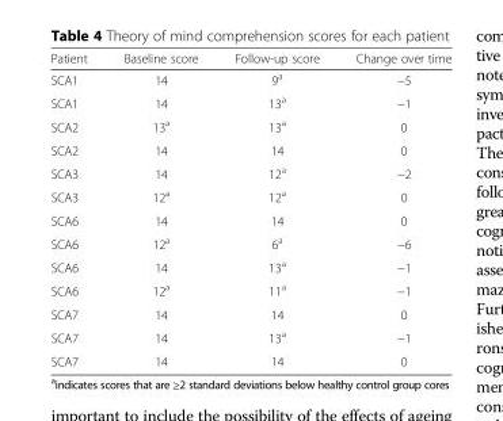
<table><thead><tr><td>Patient</td><td>Baseline score</td><td>Follow-up score</td><td>Change over time</td></tr></thead><tbody><tr><td>SCA1</td><td>14</td><td>9<sup>a</sup></td><td>−5</td></tr><tr><td>SCA1</td><td>14</td><td>13<sup>a</sup></td><td>−1</td></tr><tr><td>SCA2</td><td>13<sup>a</sup></td><td>13<sup>a</sup></td><td>0</td></tr><tr><td>SCA2</td><td>14</td><td>14</td><td>0</td></tr><tr><td>SCA3</td><td>14</td><td>12<sup>a</sup></td><td>−2</td></tr><tr><td>SCA3</td><td>12<sup>a</sup></td><td>12<sup>a</sup></td><td>0</td></tr><tr><td>SCA6</td><td>14</td><td>14</td><td>0</td></tr><tr><td>SCA6</td><td>12<sup>a</sup></td><td>6<sup>a</sup></td><td>−6</td></tr><tr><td>SCA6</td><td>14</td><td>13<sup>a</sup></td><td>−1</td></tr><tr><td>SCA6</td><td>12<sup>a</sup></td><td>11<sup>a</sup></td><td>−1</td></tr><tr><td>SCA7</td><td>14</td><td>14</td><td>0</td></tr><tr><td>SCA7</td><td>14</td><td>13<sup>a</sup></td><td>−1</td></tr><tr><td>SCA7</td><td>14</td><td>14</td><td>0</td></tr></tbody></table>